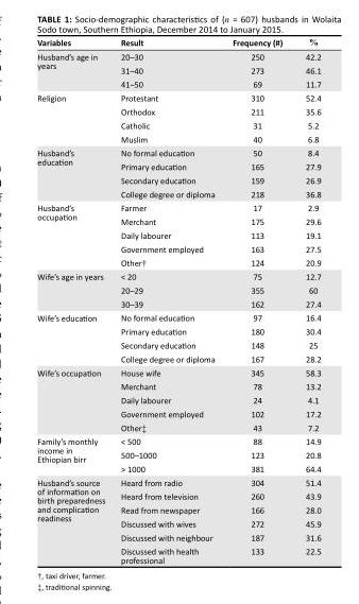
<table><thead><tr><td>Variables</td><td>Result</td><td>Frequency (#)</td><td>%</td></tr></thead><tbody><tr><td rowspan="3">Husband’s age in years</td><td>20–30</td><td>250</td><td>42.2</td></tr><tr><td>31–40</td><td>273</td><td>46.1</td></tr><tr><td>41–50</td><td>69</td><td>11.7</td></tr><tr><td rowspan="4">Religion</td><td>Protestant</td><td>310</td><td>52.4</td></tr><tr><td>Orthodox</td><td>211</td><td>35.6</td></tr><tr><td>Catholic</td><td>31</td><td>5.2</td></tr><tr><td>Muslim</td><td>40</td><td>6.8</td></tr><tr><td rowspan="4">Husband’s education</td><td>No formal education</td><td>50</td><td>8.4</td></tr><tr><td>Primary education</td><td>165</td><td>27.9</td></tr><tr><td>Secondary education</td><td>159</td><td>26.9</td></tr><tr><td>College degree or diploma</td><td>218</td><td>36.8</td></tr><tr><td rowspan="5">Husband’s occupation</td><td>Farmer</td><td>17</td><td>2.9</td></tr><tr><td>Merchant</td><td>175</td><td>29.6</td></tr><tr><td>Daily labourer</td><td>113</td><td>19.1</td></tr><tr><td>Government employed</td><td>163</td><td>27.5</td></tr><tr><td>Other†</td><td>124</td><td>20.9</td></tr><tr><td rowspan="3">Wife’s age in years</td><td>&lt; 20</td><td>75</td><td>12.7</td></tr><tr><td>20–29</td><td>355</td><td>60</td></tr><tr><td>30–39</td><td>162</td><td>27.4</td></tr><tr><td rowspan="4">Wife’s education</td><td>No formal education</td><td>97</td><td>16.4</td></tr><tr><td>Primary education</td><td>180</td><td>30.4</td></tr><tr><td>Secondary education</td><td>148</td><td>25</td></tr><tr><td>College degree or diploma</td><td>167</td><td>28.2</td></tr><tr><td rowspan="5">Wife’s occupation</td><td>House wife</td><td>345</td><td>58.3</td></tr><tr><td>Merchant</td><td>78</td><td>13.2</td></tr><tr><td>Daily labourer</td><td>24</td><td>4.1</td></tr><tr><td>Government employed</td><td>102</td><td>17.2</td></tr><tr><td>Other‡</td><td>43</td><td>7.2</td></tr><tr><td rowspan="3">Family’s monthly income in Ethiopian birr</td><td>&lt; 500</td><td>88</td><td>14.9</td></tr><tr><td>500–1000</td><td>123</td><td>20.8</td></tr><tr><td>&gt; 1000</td><td>381</td><td>64.4</td></tr><tr><td rowspan="6">Husband’s source of information on birth preparedness and complication readiness</td><td>Heard from radio</td><td>304</td><td>51.4</td></tr><tr><td>Heard from television</td><td>260</td><td>43.9</td></tr><tr><td>Read from newspaper</td><td>166</td><td>28.0</td></tr><tr><td>Discussed with wives</td><td>272</td><td>45.9</td></tr><tr><td>Discussed with neighbour</td><td>187</td><td>31.6</td></tr><tr><td>Discussed with health professional</td><td>133</td><td>22.5</td></tr></tbody></table>